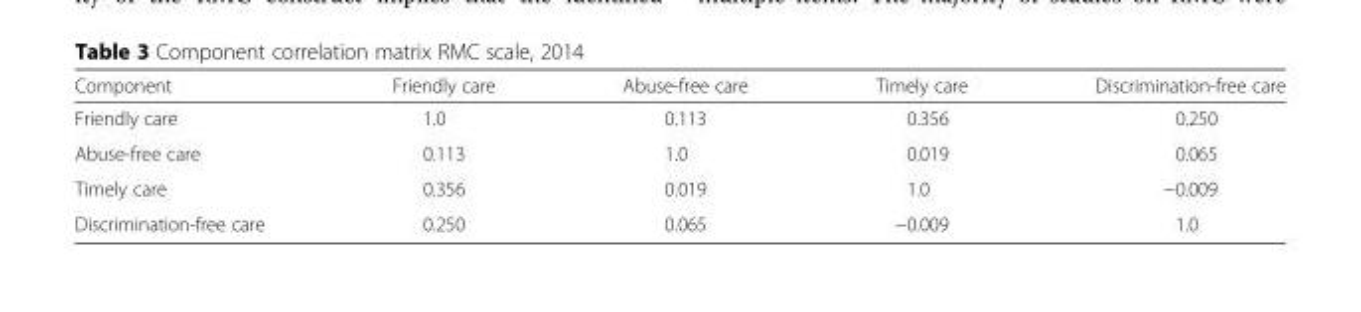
<table><thead><tr><td>Component</td><td>Friendly care</td><td>Abuse-free care</td><td>Timely care</td><td>Discrimination-free care</td></tr></thead><tbody><tr><td>Friendly care</td><td>1.0</td><td>0.113</td><td>0.356</td><td>0.250</td></tr><tr><td>Abuse-free care</td><td>0.113</td><td>1.0</td><td>0.019</td><td>0.065</td></tr><tr><td>Timely care</td><td>0.356</td><td>0.019</td><td>1.0</td><td>−0.009</td></tr><tr><td>Discrimination-free care</td><td>0.250</td><td>0.065</td><td>−0.009</td><td>1.0</td></tr></tbody></table>